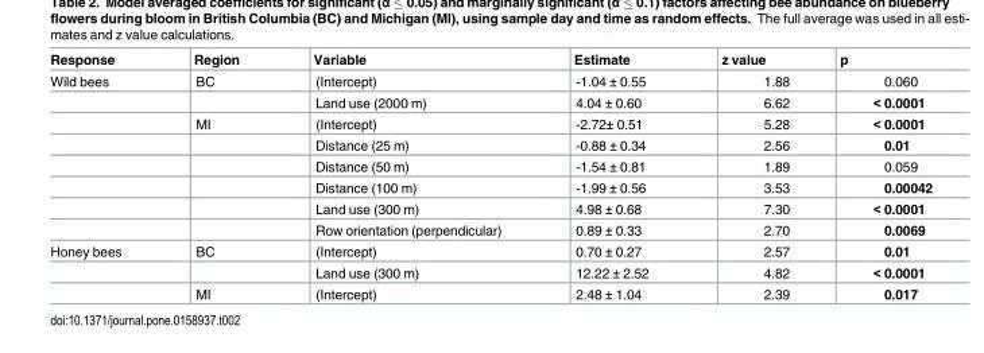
<table><thead><tr><td>Response</td><td>Region</td><td>Variable</td><td>Estimate</td><td>z value</td><td>p</td></tr></thead><tbody><tr><td rowspan="8">Wild bees</td><td>BC</td><td>(Intercept)</td><td>-1.04 ± 0.55</td><td>1.88</td><td>0.060</td></tr><tr><td></td><td>Land use (2000 m)</td><td>4.04 ± 0.60</td><td>6.62</td><td>&lt; 0.0001</td></tr><tr><td>MI</td><td>(Intercept)</td><td>-2.72± 0.51</td><td>5.28</td><td>&lt; 0.0001</td></tr><tr><td></td><td>Distance (25 m)</td><td>-0.88 ± 0.34</td><td>2.56</td><td>0.01</td></tr><tr><td></td><td>Distance (50 m)</td><td>-1.54 ± 0.81</td><td>1.89</td><td>0.059</td></tr><tr><td></td><td>Distance (100 m)</td><td>-1.99 ± 0.56</td><td>3.53</td><td>0.00042</td></tr><tr><td></td><td>Land use (300 m)</td><td>4.98 ± 0.68</td><td>7.30</td><td>&lt; 0.0001</td></tr><tr><td></td><td>Row orientation (perpendicular)</td><td>0.89 ± 0.33</td><td>2.70</td><td>0.0069</td></tr><tr><td rowspan="3">Honey bees</td><td>BC</td><td>(Intercept)</td><td>0.70 ± 0.27</td><td>2.57</td><td>0.01</td></tr><tr><td></td><td>Land use (300 m)</td><td>12.22 ± 2.52</td><td>4.82</td><td>&lt; 0.0001</td></tr><tr><td>MI</td><td>(Intercept)</td><td>2.48 ± 1.04</td><td>2.39</td><td>0.017</td></tr></tbody></table>